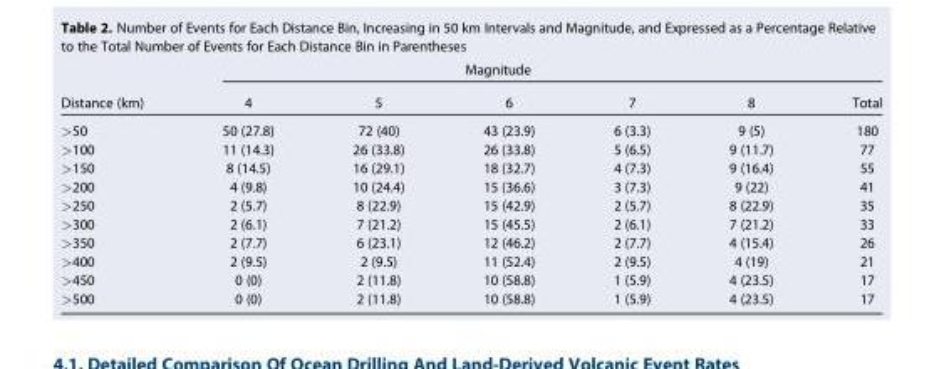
<table><thead><tr><td rowspan="2">Distance (km)</td><td colspan="5">Magnitude</td><td rowspan="2">Total</td></tr><tr><td>4</td><td>5</td><td>6</td><td>7</td><td>8</td></tr></thead><tbody><tr><td>&gt;50</td><td>50 (27.8)</td><td>72 (40)</td><td>43 (23.9)</td><td>6 (3.3)</td><td>9 (5)</td><td>180</td></tr><tr><td>&gt;100</td><td>11 (14.3)</td><td>26 (33.8)</td><td>26 (33.8)</td><td>5 (6.5)</td><td>9 (11.7)</td><td>77</td></tr><tr><td>&gt;150</td><td>8 (14.5)</td><td>16 (29.1)</td><td>18 (32.7)</td><td>4 (7.3)</td><td>9 (16.4)</td><td>55</td></tr><tr><td>&gt;200</td><td>4 (9.8)</td><td>10 (24.4)</td><td>15 (36.6)</td><td>3 (7.3)</td><td>9 (22)</td><td>41</td></tr><tr><td>&gt;250</td><td>2 (5.7)</td><td>8 (22.9)</td><td>15 (42.9)</td><td>2 (5.7)</td><td>8 (22.9)</td><td>35</td></tr><tr><td>&gt;300</td><td>2 (6.1)</td><td>7 (21.2)</td><td>15 (45.5)</td><td>2 (6.1)</td><td>7 (21.2)</td><td>33</td></tr><tr><td>&gt;350</td><td>2 (7.7)</td><td>6 (23.1)</td><td>12 (46.2)</td><td>2 (7.7)</td><td>4 (15.4)</td><td>26</td></tr><tr><td>&gt;400</td><td>2 (9.5)</td><td>2 (9.5)</td><td>11 (52.4)</td><td>2 (9.5)</td><td>4 (19)</td><td>21</td></tr><tr><td>&gt;450</td><td>0 (0)</td><td>2 (11.8)</td><td>10 (58.8)</td><td>1 (5.9)</td><td>4 (23.5)</td><td>17</td></tr><tr><td>&gt;500</td><td>0 (0)</td><td>2 (11.8)</td><td>10 (58.8)</td><td>1 (5.9)</td><td>4 (23.5)</td><td>17</td></tr></tbody></table>